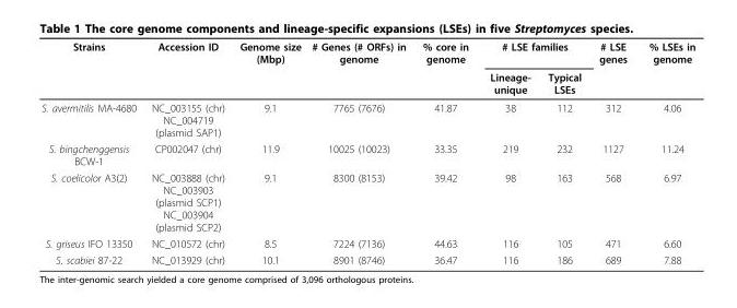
<table><thead><tr><td rowspan="2">Strains</td><td rowspan="2">Accession ID</td><td rowspan="2">Genome size (Mbp)</td><td rowspan="2"># Genes (# ORFs) in genome</td><td rowspan="2">% core in genome</td><td colspan="2"># LSE families</td><td rowspan="2"># LSE genes</td><td rowspan="2">% LSEs in genome</td></tr><tr><td>Lineage- unique</td><td>Typical LSEs</td></tr></thead><tbody><tr><td>S. avermitilis MA-4680</td><td>NC_003155 (chr) NC_004719 (plasmid SAP1)</td><td>9.1</td><td>7765 (7676)</td><td>41.87</td><td>38</td><td>112</td><td>312</td><td>4.06</td></tr><tr><td>S. bingchenggensis BCW-1</td><td>CP002047 (chr)</td><td>11.9</td><td>10025 (10023)</td><td>33.35</td><td>219</td><td>232</td><td>1127</td><td>11.24</td></tr><tr><td>S. coelicolor A3(2)</td><td>NC_003888 (chr) NC_003903 (plasmid SCP1) NC_003904 (plasmid SCP2)</td><td>9.1</td><td>8300 (8153)</td><td>39.42</td><td>98</td><td>163</td><td>568</td><td>6.97</td></tr><tr><td>S. griseus IFO 13350</td><td>NC_010572 (chr)</td><td>8.5</td><td>7224 (7136)</td><td>44.63</td><td>116</td><td>105</td><td>471</td><td>6.60</td></tr><tr><td>S. scabiei 87-22</td><td>NC_013929 (chr)</td><td>10.1</td><td>8901 (8746)</td><td>36.47</td><td>116</td><td>186</td><td>689</td><td>7.88</td></tr></tbody></table>